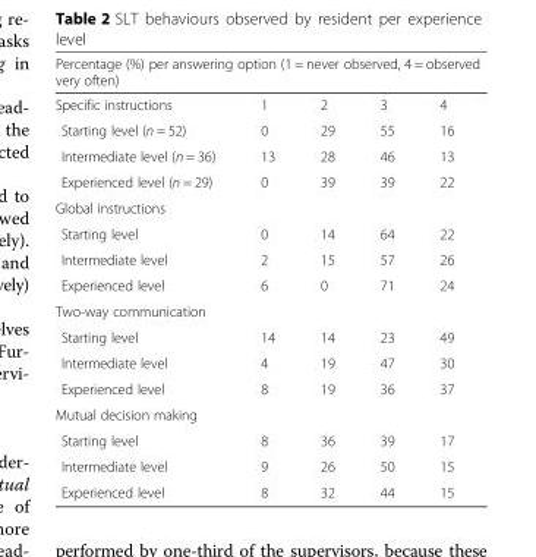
<table><thead><tr><td colspan="5">Percentage (%) per answering option (1 = never observed, 4 = observed very often)</td></tr><tr><td>Specific instructions</td><td>1</td><td>2</td><td>3</td><td>4</td></tr></thead><tbody><tr><td>Starting level (n = 52)</td><td>0</td><td>29</td><td>55</td><td>16</td></tr><tr><td>Intermediate level (n = 36)</td><td>13</td><td>28</td><td>46</td><td>13</td></tr><tr><td>Experienced level (n = 29)</td><td>0</td><td>39</td><td>39</td><td>22</td></tr><tr><td colspan="5">Global instructions</td></tr><tr><td>Starting level</td><td>0</td><td>14</td><td>64</td><td>22</td></tr><tr><td>Intermediate level</td><td>2</td><td>15</td><td>57</td><td>26</td></tr><tr><td>Experienced level</td><td>6</td><td>0</td><td>71</td><td>24</td></tr><tr><td colspan="5">Two-way communication</td></tr><tr><td>Starting level</td><td>14</td><td>14</td><td>23</td><td>49</td></tr><tr><td>Intermediate level</td><td>4</td><td>19</td><td>47</td><td>30</td></tr><tr><td>Experienced level</td><td>8</td><td>19</td><td>36</td><td>37</td></tr><tr><td colspan="5">Mutual decision making</td></tr><tr><td>Starting level</td><td>8</td><td>36</td><td>39</td><td>17</td></tr><tr><td>Intermediate level</td><td>9</td><td>26</td><td>50</td><td>15</td></tr><tr><td>Experienced level</td><td>8</td><td>32</td><td>44</td><td>15</td></tr></tbody></table>